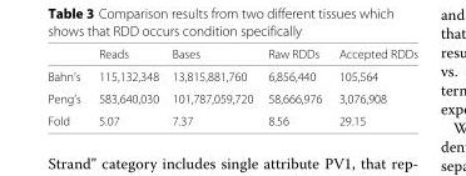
<table><thead><tr><td></td><td>Reads</td><td>Bases</td><td>Raw RDDs</td><td>Accepted RDDs</td></tr></thead><tbody><tr><td>Bahn’s</td><td>115,132,348</td><td>13,815,881,760</td><td>6,856,440</td><td>105,564</td></tr><tr><td>Peng’s</td><td>583,640,030</td><td>101,787,059,720</td><td>58,666,976</td><td>3,076,908</td></tr><tr><td>Fold</td><td>5.07</td><td>7.37</td><td>8.56</td><td>29.15</td></tr></tbody></table>